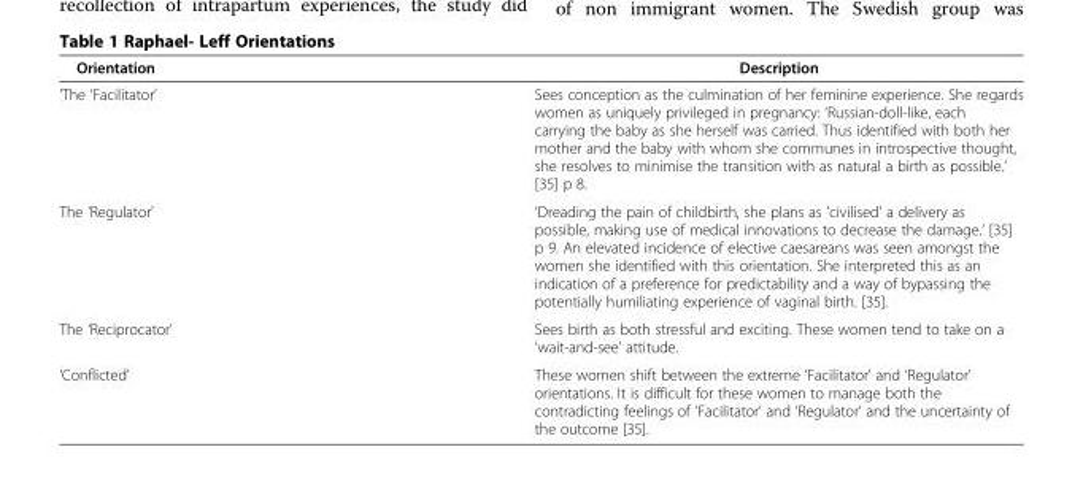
<table><thead><tr><td>Orientation</td><td>Description</td></tr></thead><tbody><tr><td>‘The ‘Facilitator’</td><td>Sees conception as the culmination of her feminine experience. She regards women as uniquely privileged in pregnancy: ‘Russian-doll-like, each carrying the baby as she herself was carried. Thus identified with both her mother and the baby with whom she communes in introspective thought, she resolves to minimise the transition with as natural a birth as possible.’ [35] p 8.</td></tr><tr><td>The ‘Regulator’</td><td>‘Dreading the pain of childbirth, she plans as &#x27;civilised&#x27; a delivery as possible, making use of medical innovations to decrease the damage.’ [35] p 9. An elevated incidence of elective caesareans was seen amongst the women she identified with this orientation. She interpreted this as an indication of a preference for predictability and a way of bypassing the potentially humiliating experience of vaginal birth. [35].</td></tr><tr><td>The ‘Reciprocator’</td><td>Sees birth as both stressful and exciting. These women tend to take on a ‘wait-and-see’ attitude.</td></tr><tr><td>‘Conflicted’</td><td>These women shift between the extreme ‘Facilitator’ and ‘Regulator’ orientations. It is difficult for these women to manage both the contradicting feelings of ‘Facilitator’ and ‘Regulator’ and the uncertainty of the outcome [35].</td></tr></tbody></table>